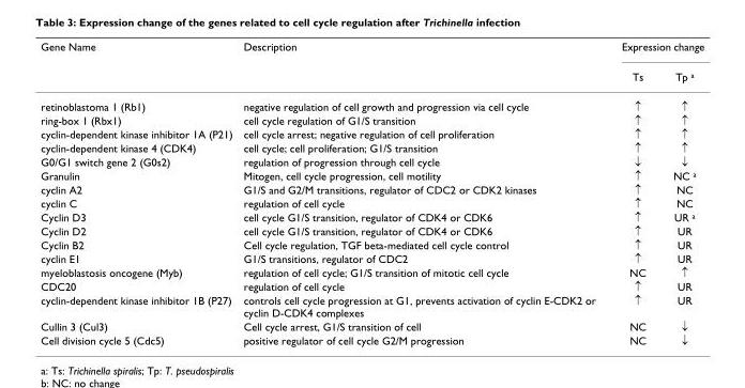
<table><thead><tr><td rowspan="2">Gene Name</td><td rowspan="2">Description</td><td colspan="2">Expression change</td></tr><tr><td>Ts</td><td>Tp <sup>a</sup></td></tr></thead><tbody><tr><td>retinoblastoma 1 (Rb1)</td><td>negative regulation of cell growth and progression via cell cycle</td><td>↑</td><td>↑</td></tr><tr><td>ring-box 1 (Rbx1)</td><td>cell cycle regulation of G1/S transition</td><td>↑</td><td>↑</td></tr><tr><td>cyclin-dependent kinase inhibitor 1A (P21)</td><td>cell cycle arrest; negative regulation of cell proliferation</td><td>↑</td><td>↑</td></tr><tr><td>cyclin-dependent kinase 4 (CDK4)</td><td>cell cycle; cell proliferation; G1/S transition</td><td>↑</td><td>↑</td></tr><tr><td>G0/G1 switch gene 2 (G0s2)</td><td>regulation of progression through cell cycle</td><td>↓</td><td>↓</td></tr><tr><td>Granulin</td><td>Mitogen, cell cycle progression, cell motility</td><td>↑</td><td>NC <sup>a</sup></td></tr><tr><td>cyclin A2</td><td>G1/S and G2/M transitions, regulator of CDC2 or CDK2 kinases</td><td>↑</td><td>NC</td></tr><tr><td>cyclin C</td><td>regulation of cell cycle</td><td>↑</td><td>NC</td></tr><tr><td>Cyclin D3</td><td>cell cycle G1/S transition, regulator of CDK4 or CDK6</td><td>↑</td><td>UR <sup>a</sup></td></tr><tr><td>Cyclin D2</td><td>cell cycle G1/S transition, regulator of CDK4 or CDK6</td><td>↑</td><td>UR</td></tr><tr><td>Cyclin B2</td><td>Cell cycle regulation, TGF beta-mediated cell cycle control</td><td>↑</td><td>UR</td></tr><tr><td>cyclin E1</td><td>G1/S transitions, regulator of CDC2</td><td>↑</td><td>UR</td></tr><tr><td>myeloblastosis oncogene (Myb)</td><td>regulation of cell cycle; G1/S transition of mitotic cell cycle</td><td>NC</td><td>↑</td></tr><tr><td>CDC20</td><td>regulation of cell cycle</td><td>↑</td><td>UR</td></tr><tr><td>cyclin-dependent kinase inhibitor 1B (P27)</td><td>controls cell cycle progression at G1, prevents activation of cyclin E-CDK2 or cyclin D-CDK4 complexes</td><td>↑</td><td>UR</td></tr><tr><td>Cullin 3 (Cul3)</td><td>Cell cycle arrest, G1/S transition of cell</td><td>NC</td><td>↓</td></tr><tr><td>Cell division cycle 5 (Cdc5)</td><td>positive regulator of cell cycle G2/M progression</td><td>NC</td><td>↓</td></tr></tbody></table>